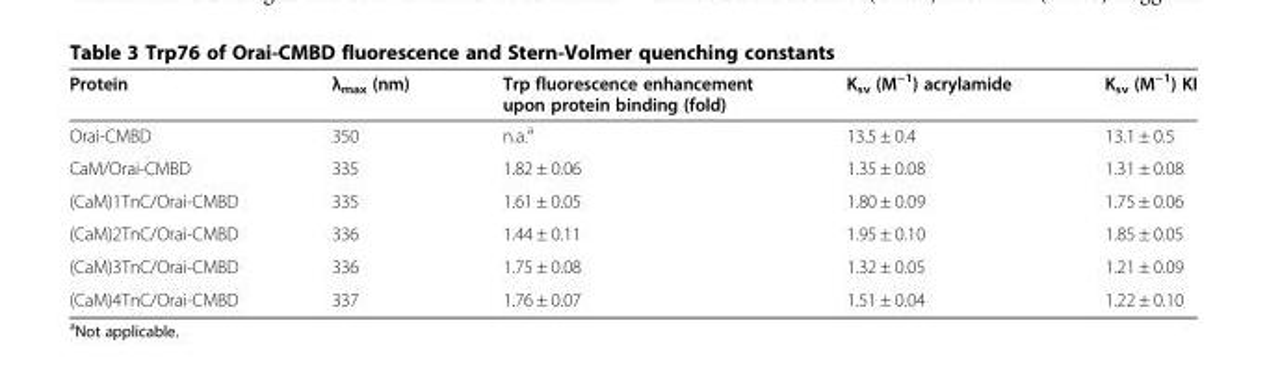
<table><thead><tr><td>Protein</td><td>λ<sub>max</sub> (nm)</td><td>Trp fluorescence enhancement upon protein binding (fold)</td><td>K<sub>sv</sub> (M<sup>−1</sup>) acrylamide</td><td>K<sub>sv</sub> (M<sup>−1</sup>) KI</td></tr></thead><tbody><tr><td>Orai-CMBD</td><td>350</td><td>n.a.<sup>a</sup></td><td>13.5 ± 0.4</td><td>13.1 ± 0.5</td></tr><tr><td>CaM/Orai-CMBD</td><td>335</td><td>1.82 ± 0.06</td><td>1.35 ± 0.08</td><td>1.31 ± 0.08</td></tr><tr><td>(CaM)1TnC/Orai-CMBD</td><td>335</td><td>1.61 ± 0.05</td><td>1.80 ± 0.09</td><td>1.75 ± 0.06</td></tr><tr><td>(CaM)2TnC/Orai-CMBD</td><td>336</td><td>1.44 ± 0.11</td><td>1.95 ± 0.10</td><td>1.85 ± 0.05</td></tr><tr><td>(CaM)3TnC/Orai-CMBD</td><td>336</td><td>1.75 ± 0.08</td><td>1.32 ± 0.05</td><td>1.21 ± 0.09</td></tr><tr><td>(CaM)4TnC/Orai-CMBD</td><td>337</td><td>1.76 ± 0.07</td><td>1.51 ± 0.04</td><td>1.22 ± 0.10</td></tr></tbody></table>